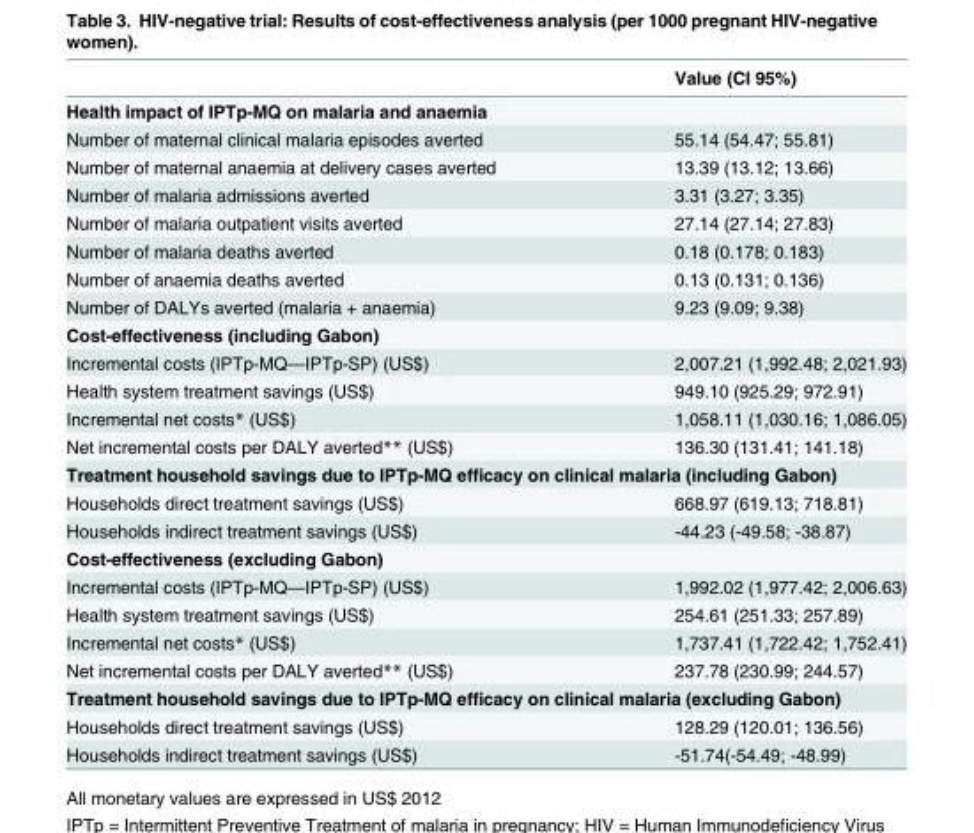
<table><thead><tr><td></td><td>Value (CI 95%)</td></tr></thead><tbody><tr><td colspan="2">Health impact of IPTp-MQ on malaria and anaemia</td></tr><tr><td>Number of maternal clinical malaria episodes averted</td><td>55.14 (54.47; 55.81)</td></tr><tr><td>Number of maternal anaemia at delivery cases averted</td><td>13.39 (13.12; 13.66)</td></tr><tr><td>Number of malaria admissions averted</td><td>3.31 (3.27; 3.35)</td></tr><tr><td>Number of malaria outpatient visits averted</td><td>27.14 (27.14; 27.83)</td></tr><tr><td>Number of malaria deaths averted</td><td>0.18 (0.178; 0.183)</td></tr><tr><td>Number of anaemia deaths averted</td><td>0.13 (0.131; 0.136)</td></tr><tr><td>Number of DALYs averted (malaria + anaemia)</td><td>9.23 (9.09; 9.38)</td></tr><tr><td colspan="2">Cost-effectiveness (including Gabon)</td></tr><tr><td>Incremental costs (IPTp-MQ—IPTp-SP) (US$)</td><td>2,007.21 (1,992.48; 2,021.93)</td></tr><tr><td>Health system treatment savings (US$)</td><td>949.10 (925.29; 972.91)</td></tr><tr><td>Incremental net costs* (US$)</td><td>1,058.11 (1,030.16; 1,086.05)</td></tr><tr><td>Net incremental costs per DALY averted** (US$)</td><td>136.30 (131.41; 141.18)</td></tr><tr><td colspan="2">Treatment household savings due to IPTp-MQ efficacy on clinical malaria (including Gabon)</td></tr><tr><td>Households direct treatment savings (US$)</td><td>668.97 (619.13; 718.81)</td></tr><tr><td>Households indirect treatment savings (US$)</td><td>-44.23 (-49.58; -38.87)</td></tr><tr><td colspan="2">Cost-effectiveness (excluding Gabon)</td></tr><tr><td>Incremental costs (IPTp-MQ—IPTp-SP) (US$)</td><td>1,992.02 (1,977.42; 2,006.63)</td></tr><tr><td>Health system treatment savings (US$)</td><td>254.61 (251.33; 257.89)</td></tr><tr><td>Incremental net costs* (US$)</td><td>1,737.41 (1,722.42; 1,752.41)</td></tr><tr><td>Net incremental costs per DALY averted** (US$)</td><td>237.78 (230.99; 244.57)</td></tr><tr><td colspan="2">Treatment household savings due to IPTp-MQ efficacy on clinical malaria (excluding Gabon)</td></tr><tr><td>Households direct treatment savings (US$)</td><td>128.29 (120.01; 136.56)</td></tr><tr><td>Households indirect treatment savings (US$)</td><td>-51.74(-54.49; -48.99)</td></tr></tbody></table>